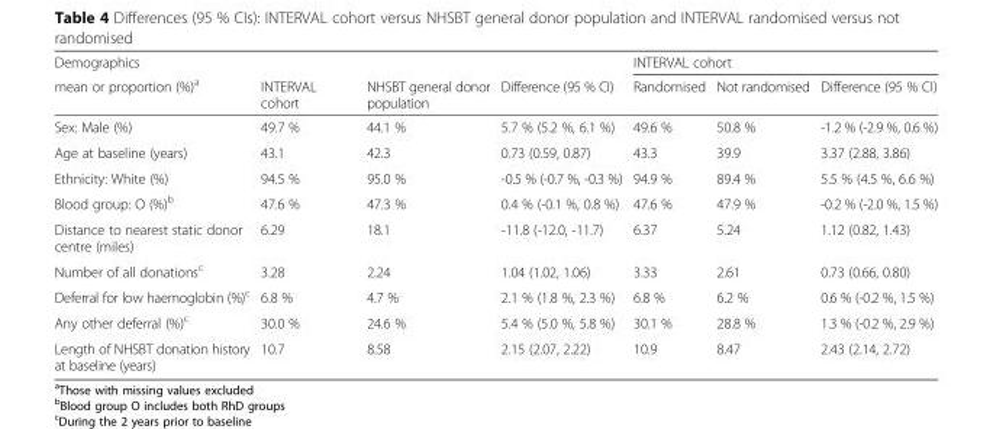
<table><thead><tr><td rowspan="2">Demographics mean or proportion (%)<sup>a</sup></td><td rowspan="2">INTERVAL cohort</td><td rowspan="2">NHSBT general donor population</td><td rowspan="2">Difference (95 % CI)</td><td colspan="3">INTERVAL cohort</td></tr><tr><td>Randomised</td><td>Not randomised</td><td>Difference (95 % CI)</td></tr></thead><tbody><tr><td>Sex: Male (%)</td><td>49.7 %</td><td>44.1 %</td><td>5.7 % (5.2 %, 6.1 %)</td><td>49.6 %</td><td>50.8 %</td><td>-1.2 % (-2.9 %, 0.6 %)</td></tr><tr><td>Age at baseline (years)</td><td>43.1</td><td>42.3</td><td>0.73 (0.59, 0.87)</td><td>43.3</td><td>39.9</td><td>3.37 (2.88, 3.86)</td></tr><tr><td>Ethnicity: White (%)</td><td>94.5 %</td><td>95.0 %</td><td>-0.5 % (-0.7 %, -0.3 %)</td><td>94.9 %</td><td>89.4 %</td><td>5.5 % (4.5 %, 6.6 %)</td></tr><tr><td>Blood group: O (%)<sup>b</sup></td><td>47.6 %</td><td>47.3 %</td><td>0.4 % (-0.1 %, 0.8 %)</td><td>47.6 %</td><td>47.9 %</td><td>-0.2 % (-2.0 %, 1.5 %)</td></tr><tr><td>Distance to nearest static donor centre (miles)</td><td>6.29</td><td>18.1</td><td>-11.8 (-12.0, -11.7)</td><td>6.37</td><td>5.24</td><td>1.12 (0.82, 1.43)</td></tr><tr><td>Number of all donations<sup>c</sup></td><td>3.28</td><td>2.24</td><td>1.04 (1.02, 1.06)</td><td>3.33</td><td>2.61</td><td>0.73 (0.66, 0.80)</td></tr><tr><td>Deferral for low haemoglobin (%)<sup>c</sup></td><td>6.8 %</td><td>4.7 %</td><td>2.1 % (1.8 %, 2.3 %)</td><td>6.8 %</td><td>6.2 %</td><td>0.6 % (-0.2 %, 1.5 %)</td></tr><tr><td>Any other deferral (%)<sup>c</sup></td><td>30.0 %</td><td>24.6 %</td><td>5.4 % (5.0 %, 5.8 %)</td><td>30.1 %</td><td>28.8 %</td><td>1.3 % (-0.2 %, 2.9 %)</td></tr><tr><td>Length of NHSBT donation history at baseline (years)</td><td>10.7</td><td>8.58</td><td>2.15 (2.07, 2.22)</td><td>10.9</td><td>8.47</td><td>2.43 (2.14, 2.72)</td></tr></tbody></table>